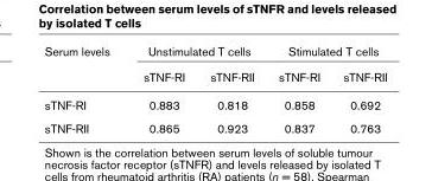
<table><thead><tr><td rowspan="2">Serum levels</td><td colspan="2">Unstimulated T cells</td><td colspan="2">Stimulated T cells</td></tr><tr><td>sTNF-RI</td><td>sTNF-RII</td><td>sTNF-RI</td><td>sTNF-RII</td></tr></thead><tbody><tr><td>sTNF-RI</td><td>0.883</td><td>0.818</td><td>0.858</td><td>0.692</td></tr><tr><td>sTNF-RII</td><td>0.865</td><td>0.923</td><td>0.837</td><td>0.763</td></tr></tbody></table>